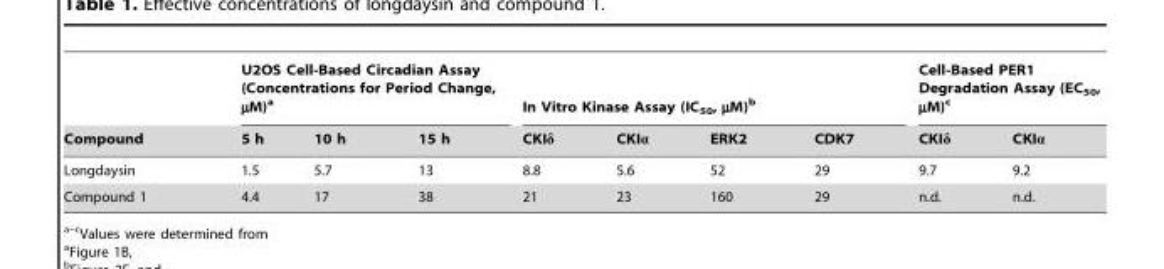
<table><thead><tr><td rowspan="2">Compound</td><td colspan="3">U2OS Cell-Based Circadian Assay (Concentrations for Period Change, µM)<sup>a</sup></td><td colspan="4">In Vitro Kinase Assay (IC<sub>50</sub>, µM)<sup>b</sup></td><td colspan="2">Cell-Based PER1 Degradation Assay (EC<sub>50</sub>, µM)<sup>c</sup></td></tr><tr><td>5 h</td><td>10 h</td><td>15 h</td><td>CKIδ</td><td>CKIα</td><td>ERK2</td><td>CDK7</td><td>CKIδ</td><td>CKIα</td></tr></thead><tbody><tr><td>Longdaysin</td><td>1.5</td><td>5.7</td><td>13</td><td>8.8</td><td>5.6</td><td>52</td><td>29</td><td>9.7</td><td>9.2</td></tr><tr><td>Compound 1</td><td>4.4</td><td>17</td><td>38</td><td>21</td><td>23</td><td>160</td><td>29</td><td>n.d.</td><td>n.d.</td></tr></tbody></table>